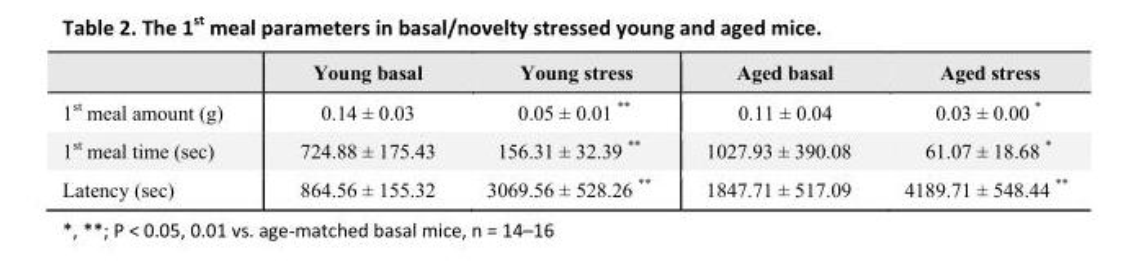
<table><thead><tr><td></td><td>Young basal</td><td>Young stress</td><td>Aged basal</td><td>Aged stress</td></tr></thead><tbody><tr><td>1<sup>st</sup> meal amount (g)</td><td>0.14 ± 0.03</td><td>0.05 ± 0.01 **</td><td>0.11 ± 0.04</td><td>0.03 ± 0.00 *</td></tr><tr><td>1<sup>st</sup> meal time (sec)</td><td>724.88 ± 175.43</td><td>156.31 ± 32.39 **</td><td>1027.93 ± 390.08</td><td>61.07 ± 18.68 *</td></tr><tr><td>Latency (sec)</td><td>864.56 ± 155.32</td><td>3069.56 ± 528.26 **</td><td>1847.71 ± 517.09</td><td>4189.71 ± 548.44 **</td></tr></tbody></table>